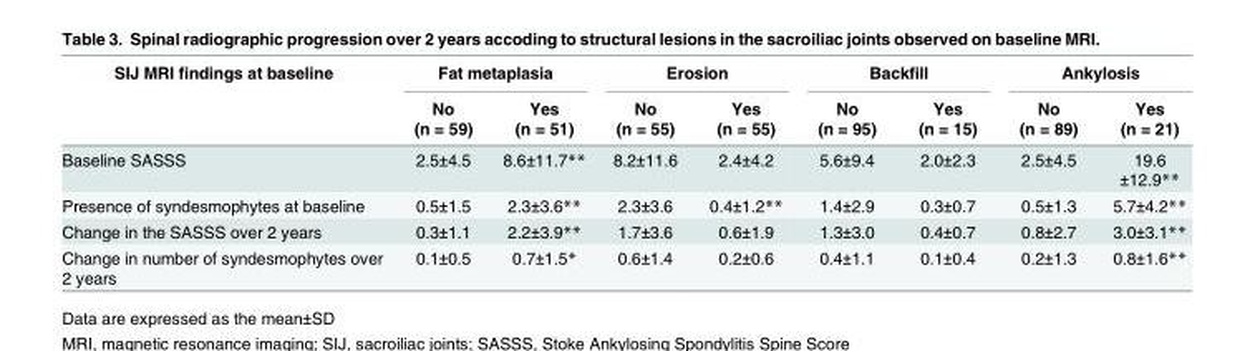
<table><thead><tr><td rowspan="2">SIJ MRI findings at baseline</td><td colspan="2">Fat metaplasia</td><td colspan="2">Erosion</td><td colspan="2">Backfill</td><td colspan="2">Ankylosis</td></tr><tr><td>No (n = 59)</td><td>Yes (n = 51)</td><td>No (n = 55)</td><td>Yes (n = 55)</td><td>No (n = 95)</td><td>Yes (n = 15)</td><td>No (n = 89)</td><td>Yes (n = 21)</td></tr></thead><tbody><tr><td>Baseline SASSS</td><td>2.5±4.5</td><td>8.6±11.7**</td><td>8.2±11.6</td><td>2.4±4.2</td><td>5.6±9.4</td><td>2.0±2.3</td><td>2.5±4.5</td><td>19.6 ±12.9**</td></tr><tr><td>Presence of syndesmophytes at baseline</td><td>0.5±1.5</td><td>2.3±3.6**</td><td>2.3±3.6</td><td>0.4±1.2**</td><td>1.4±2.9</td><td>0.3±0.7</td><td>0.5±1.3</td><td>5.7±4.2**</td></tr><tr><td>Change in the SASSS over 2 years</td><td>0.3±1.1</td><td>2.2±3.9**</td><td>1.7±3.6</td><td>0.6±1.9</td><td>1.3±3.0</td><td>0.4±0.7</td><td>0.8±2.7</td><td>3.0±3.1**</td></tr><tr><td>Change in number of syndesmophytes over 2 years</td><td>0.1±0.5</td><td>0.7±1.5*</td><td>0.6±1.4</td><td>0.2±0.6</td><td>0.4±1.1</td><td>0.1±0.4</td><td>0.2±1.3</td><td>0.8±1.6**</td></tr></tbody></table>